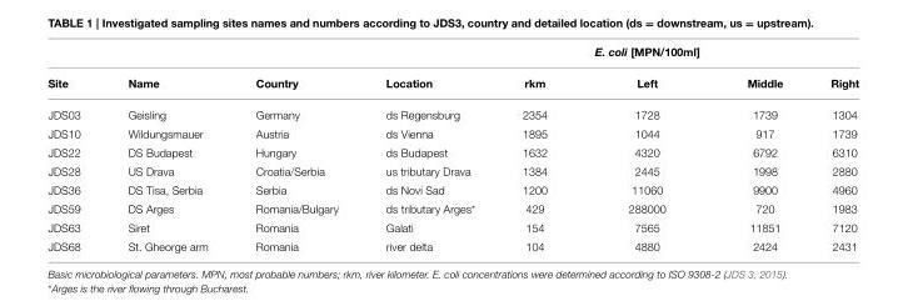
<table><thead><tr><td></td><td></td><td></td><td></td><td></td><td>E. coli [MPN/100ml]</td><td></td><td></td></tr></thead><tbody><tr><td>Site</td><td>Name</td><td>Country</td><td>Location</td><td>rkm</td><td>Left</td><td>Middle</td><td>Right</td></tr><tr><td>JDS03</td><td>Geisling</td><td>Germany</td><td>ds Regensburg</td><td>2354</td><td>1728</td><td>1739</td><td>1304</td></tr><tr><td>JDS10</td><td>Wildungsmauer</td><td>Austria</td><td>ds Vienna</td><td>1895</td><td>1044</td><td>917</td><td>1739</td></tr><tr><td>JDS22</td><td>DS Budapest</td><td>Hungary</td><td>ds Budapest</td><td>1632</td><td>4320</td><td>6792</td><td>6310</td></tr><tr><td>JDS28</td><td>US Drava</td><td>Croatia/Serbia</td><td>us tributary Drava</td><td>1384</td><td>2445</td><td>1998</td><td>2880</td></tr><tr><td>JDS36</td><td>DS Tisa, Serbia</td><td>Serbia</td><td>ds Novi Sad</td><td>1200</td><td>11060</td><td>9900</td><td>4960</td></tr><tr><td>JDS59</td><td>DS Arges</td><td>Romania/Bulgary</td><td>ds tributary Arges*</td><td>429</td><td>288000</td><td>720</td><td>1983</td></tr><tr><td>JDS63</td><td>Siret</td><td>Romania</td><td>Galati</td><td>154</td><td>7565</td><td>11851</td><td>7120</td></tr><tr><td>JDS68</td><td>St. Gheorge arm</td><td>Romania</td><td>river delta</td><td>104</td><td>4880</td><td>2424</td><td>2431</td></tr></tbody></table>